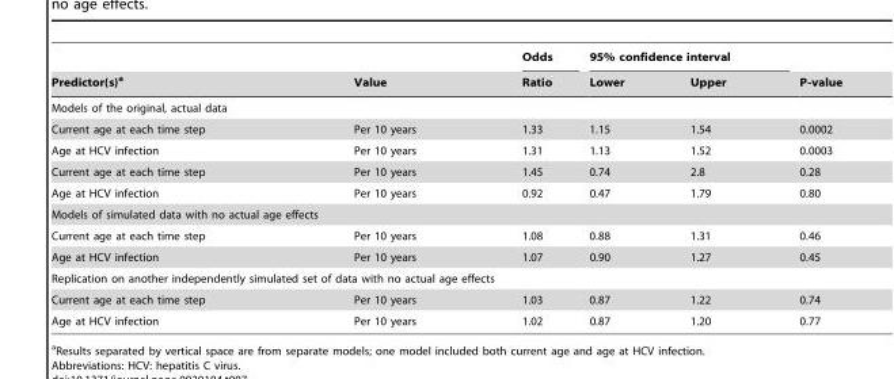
<table><thead><tr><td rowspan="2">Predictor(s)<sup>a</sup></td><td rowspan="2">Value</td><td rowspan="2">Odds Ratio</td><td colspan="2">95% confidence interval</td><td rowspan="2">P-value</td></tr><tr><td>Lower</td><td>Upper</td></tr></thead><tbody><tr><td colspan="6">Models of the original, actual data</td></tr><tr><td>Current age at each time step</td><td>Per 10 years</td><td>1.33</td><td>1.15</td><td>1.54</td><td>0.0002</td></tr><tr><td>Age at HCV infection</td><td>Per 10 years</td><td>1.31</td><td>1.13</td><td>1.52</td><td>0.0003</td></tr><tr><td>Current age at each time step</td><td>Per 10 years</td><td>1.45</td><td>0.74</td><td>2.8</td><td>0.28</td></tr><tr><td>Age at HCV infection</td><td>Per 10 years</td><td>0.92</td><td>0.47</td><td>1.79</td><td>0.80</td></tr><tr><td colspan="6">Models of simulated data with no actual age effects</td></tr><tr><td>Current age at each time step</td><td>Per 10 years</td><td>1.08</td><td>0.88</td><td>1.31</td><td>0.46</td></tr><tr><td>Age at HCV infection</td><td>Per 10 years</td><td>1.07</td><td>0.90</td><td>1.27</td><td>0.45</td></tr><tr><td colspan="6">Replication on another independently simulated set of data with no actual age effects</td></tr><tr><td>Current age at each time step</td><td>Per 10 years</td><td>1.03</td><td>0.87</td><td>1.22</td><td>0.74</td></tr><tr><td>Age at HCV infection</td><td>Per 10 years</td><td>1.02</td><td>0.87</td><td>1.20</td><td>0.77</td></tr></tbody></table>